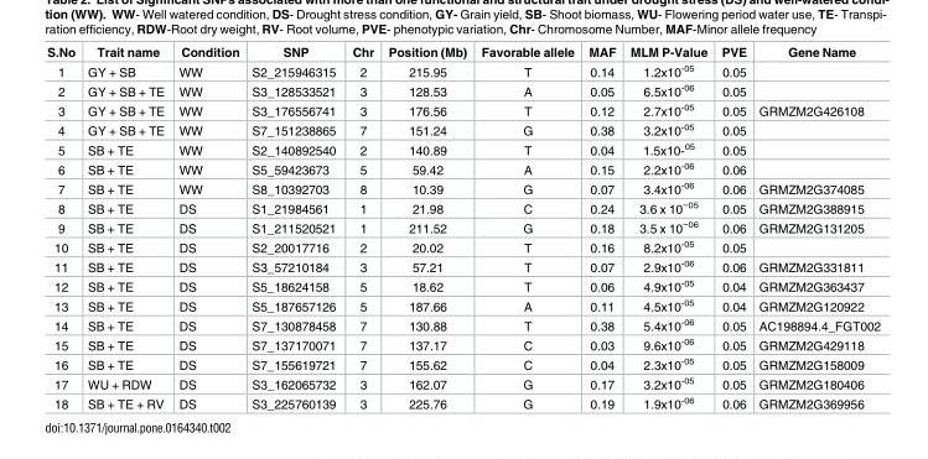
<table><thead><tr><td>S.No</td><td>Trait name</td><td>Condition</td><td>SNP</td><td>Chr</td><td>Position (Mb)</td><td>Favorable allele</td><td>MAF</td><td>MLM P-Value</td><td>PVE</td><td>Gene Name</td></tr></thead><tbody><tr><td>1</td><td>GY + SB</td><td>WW</td><td>S2_215946315</td><td>2</td><td>215.95</td><td>T</td><td>0.14</td><td>1.2x10<sup>-05</sup></td><td>0.05</td><td></td></tr><tr><td>2</td><td>GY + SB + TE</td><td>WW</td><td>S3_128533521</td><td>3</td><td>128.53</td><td>A</td><td>0.05</td><td>6.5x10<sup>-06</sup></td><td>0.05</td><td></td></tr><tr><td>3</td><td>GY + SB + TE</td><td>WW</td><td>S3_176556741</td><td>3</td><td>176.56</td><td>T</td><td>0.12</td><td>2.7x10<sup>-05</sup></td><td>0.05</td><td>GRMZM2G426108</td></tr><tr><td>4</td><td>GY + SB + TE</td><td>WW</td><td>S7_151238865</td><td>7</td><td>151.24</td><td>G</td><td>0.38</td><td>3.2x10<sup>-05</sup></td><td>0.05</td><td></td></tr><tr><td>5</td><td>SB + TE</td><td>WW</td><td>S2_140892540</td><td>2</td><td>140.89</td><td>T</td><td>0.04</td><td>1.5x10-<sup>05</sup></td><td>0.05</td><td></td></tr><tr><td>6</td><td>SB + TE</td><td>WW</td><td>S5_59423673</td><td>5</td><td>59.42</td><td>A</td><td>0.15</td><td>2.2x10<sup>-06</sup></td><td>0.06</td><td></td></tr><tr><td>7</td><td>SB + TE</td><td>WW</td><td>S8_10392703</td><td>8</td><td>10.39</td><td>G</td><td>0.07</td><td>3.4x10<sup>-06</sup></td><td>0.06</td><td>GRMZM2G374085</td></tr><tr><td>8</td><td>SB + TE</td><td>DS</td><td>S1_21984561</td><td>1</td><td>21.98</td><td>C</td><td>0.24</td><td>3.6 x 10<sup>−05</sup></td><td>0.05</td><td>GRMZM2G388915</td></tr><tr><td>9</td><td>SB + TE</td><td>DS</td><td>S1_211520521</td><td>1</td><td>211.52</td><td>G</td><td>0.18</td><td>3.5 x 10<sup>−06</sup></td><td>0.06</td><td>GRMZM2G131205</td></tr><tr><td>10</td><td>SB + TE</td><td>DS</td><td>S2_20017716</td><td>2</td><td>20.02</td><td>T</td><td>0.16</td><td>8.2x10<sup>-05</sup></td><td>0.05</td><td></td></tr><tr><td>11</td><td>SB + TE</td><td>DS</td><td>S3_57210184</td><td>3</td><td>57.21</td><td>T</td><td>0.07</td><td>2.9x10<sup>-06</sup></td><td>0.06</td><td>GRMZM2G331811</td></tr><tr><td>12</td><td>SB + TE</td><td>DS</td><td>S5_18624158</td><td>5</td><td>18.62</td><td>T</td><td>0.06</td><td>4.9x10<sup>-05</sup></td><td>0.04</td><td>GRMZM2G363437</td></tr><tr><td>13</td><td>SB + TE</td><td>DS</td><td>S5_187657126</td><td>5</td><td>187.66</td><td>A</td><td>0.11</td><td>4.5x10<sup>-05</sup></td><td>0.04</td><td>GRMZM2G120922</td></tr><tr><td>14</td><td>SB + TE</td><td>DS</td><td>S7_130878458</td><td>7</td><td>130.88</td><td>T</td><td>0.38</td><td>5.4x10<sup>-06</sup></td><td>0.05</td><td>AC198894.4_FGT002</td></tr><tr><td>15</td><td>SB + TE</td><td>DS</td><td>S7_137170071</td><td>7</td><td>137.17</td><td>C</td><td>0.03</td><td>9.6x10<sup>-06</sup></td><td>0.05</td><td>GRMZM2G429118</td></tr><tr><td>16</td><td>SB + TE</td><td>DS</td><td>S7_155619721</td><td>7</td><td>155.62</td><td>C</td><td>0.04</td><td>2.3x10<sup>-05</sup></td><td>0.05</td><td>GRMZM2G158009</td></tr><tr><td>17</td><td>WU + RDW</td><td>DS</td><td>S3_162065732</td><td>3</td><td>162.07</td><td>G</td><td>0.17</td><td>3.2x10<sup>-05</sup></td><td>0.05</td><td>GRMZM2G180406</td></tr><tr><td>18</td><td>SB + TE + RV</td><td>DS</td><td>S3_225760139</td><td>3</td><td>225.76</td><td>G</td><td>0.19</td><td>1.9x10<sup>-06</sup></td><td>0.06</td><td>GRMZM2G369956</td></tr></tbody></table>